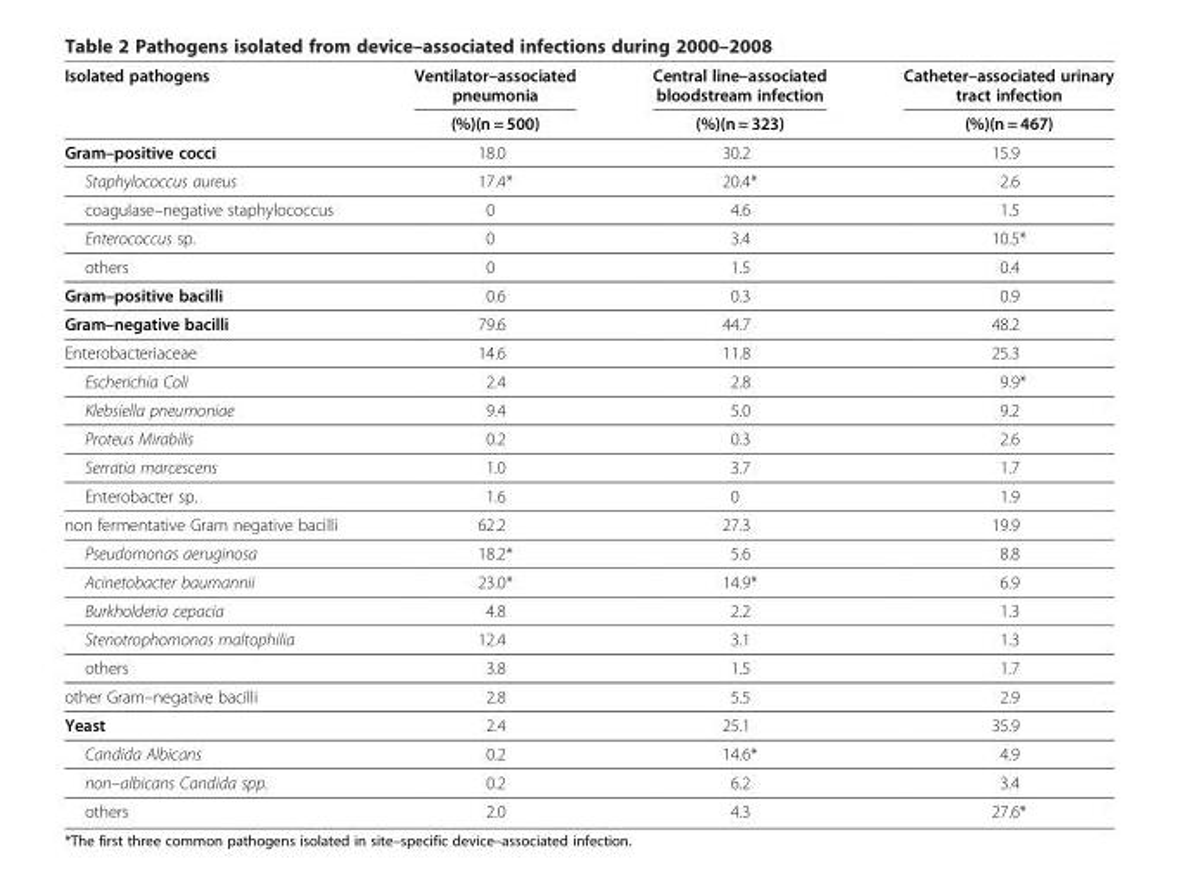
<table><thead><tr><td>Isolated pathogens</td><td>Ventilator–associated pneumonia</td><td>Central line–associated bloodstream infection</td><td>Catheter–associated urinary tract infection</td></tr></thead><tbody><tr><td></td><td>(%)(n = 500)</td><td>(%)(n = 323)</td><td>(%)(n = 467)</td></tr><tr><td>Gram–positive cocci</td><td>18.0</td><td>30.2</td><td>15.9</td></tr><tr><td>Staphylococcus aureus</td><td>17.4*</td><td>20.4*</td><td>2.6</td></tr><tr><td>coagulase–negative staphylococcus</td><td>0</td><td>4.6</td><td>1.5</td></tr><tr><td>Enterococcus sp.</td><td>0</td><td>3.4</td><td>10.5*</td></tr><tr><td>others</td><td>0</td><td>1.5</td><td>0.4</td></tr><tr><td>Gram–positive bacilli</td><td>0.6</td><td>0.3</td><td>0.9</td></tr><tr><td>Gram–negative bacilli</td><td>79.6</td><td>44.7</td><td>48.2</td></tr><tr><td>Enterobacteriaceae</td><td>14.6</td><td>11.8</td><td>25.3</td></tr><tr><td>Escherichia Coli</td><td>2.4</td><td>2.8</td><td>9.9*</td></tr><tr><td>Klebsiella pneumoniae</td><td>9.4</td><td>5.0</td><td>9.2</td></tr><tr><td>Proteus Mirabilis</td><td>0.2</td><td>0.3</td><td>2.6</td></tr><tr><td>Serratia marcescens</td><td>1.0</td><td>3.7</td><td>1.7</td></tr><tr><td>Enterobacter sp.</td><td>1.6</td><td>0</td><td>1.9</td></tr><tr><td>non fermentative Gram negative bacilli</td><td>62.2</td><td>27.3</td><td>19.9</td></tr><tr><td>Pseudomonas aeruginosa</td><td>18.2*</td><td>5.6</td><td>8.8</td></tr><tr><td>Acinetobacter baumannii</td><td>23.0*</td><td>14.9*</td><td>6.9</td></tr><tr><td>Burkholderia cepacia</td><td>4.8</td><td>2.2</td><td>1.3</td></tr><tr><td>Stenotrophomonas maltophilia</td><td>12.4</td><td>3.1</td><td>1.3</td></tr><tr><td>others</td><td>3.8</td><td>1.5</td><td>1.7</td></tr><tr><td>other Gram–negative bacilli</td><td>2.8</td><td>5.5</td><td>2.9</td></tr><tr><td>Yeast</td><td>2.4</td><td>25.1</td><td>35.9</td></tr><tr><td>Candida Albicans</td><td>0.2</td><td>14.6*</td><td>4.9</td></tr><tr><td>non–albicans Candida spp.</td><td>0.2</td><td>6.2</td><td>3.4</td></tr><tr><td>others</td><td>2.0</td><td>4.3</td><td>27.6*</td></tr></tbody></table>